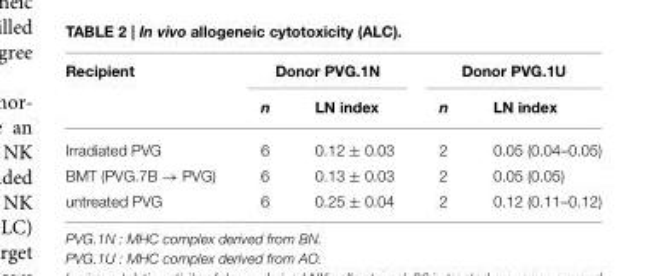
<table><thead><tr><td rowspan="2">Recipient</td><td colspan="2">Donor PVG.1N</td><td colspan="2">Donor PVG.1U</td></tr><tr><td>n</td><td>LN index</td><td>n</td><td>LN index</td></tr></thead><tbody><tr><td>Irradiated PVG</td><td>6</td><td>0.12 ± 0.03</td><td>2</td><td>0.05 (0.04–0.05)</td></tr><tr><td>BMT (PVG.7B → PVG)</td><td>6</td><td>0.13 ± 0.03</td><td>2</td><td>0.05 (0.05)</td></tr><tr><td>untreated PVG</td><td>6</td><td>0.25 ± 0.04</td><td>2</td><td>0.12 (0.11–0.12)</td></tr></tbody></table>